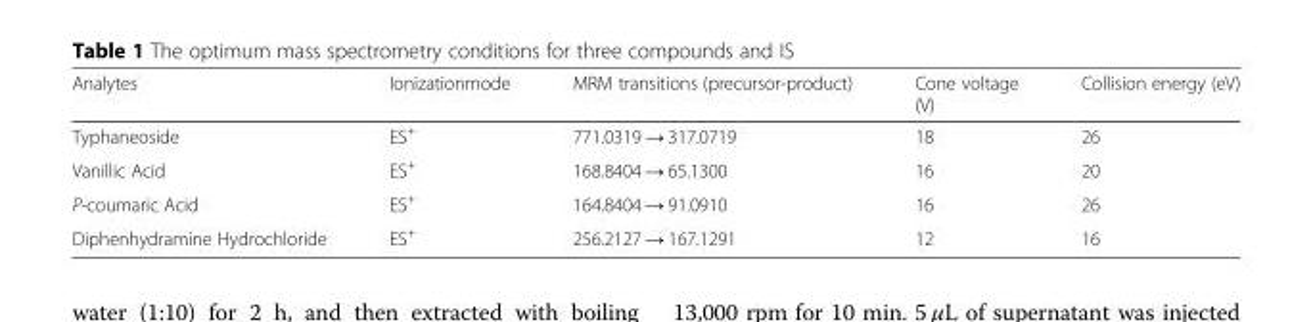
<table><thead><tr><td>Analytes</td><td>Ionizationmode</td><td>MRM transitions (precursor-product)</td><td>Cone voltage (V)</td><td>Collision energy (eV)</td></tr></thead><tbody><tr><td>Typhaneoside</td><td>ES<sup>+</sup></td><td>771.0319 → 317.0719</td><td>18</td><td>26</td></tr><tr><td>Vanillic Acid</td><td>ES<sup>+</sup></td><td>168.8404 → 65.1300</td><td>16</td><td>20</td></tr><tr><td>P-coumaric Acid</td><td>ES<sup>+</sup></td><td>164.8404 → 91.0910</td><td>16</td><td>26</td></tr><tr><td>Diphenhydramine Hydrochloride</td><td>ES<sup>+</sup></td><td>256.2127 → 167.1291</td><td>12</td><td>16</td></tr></tbody></table>